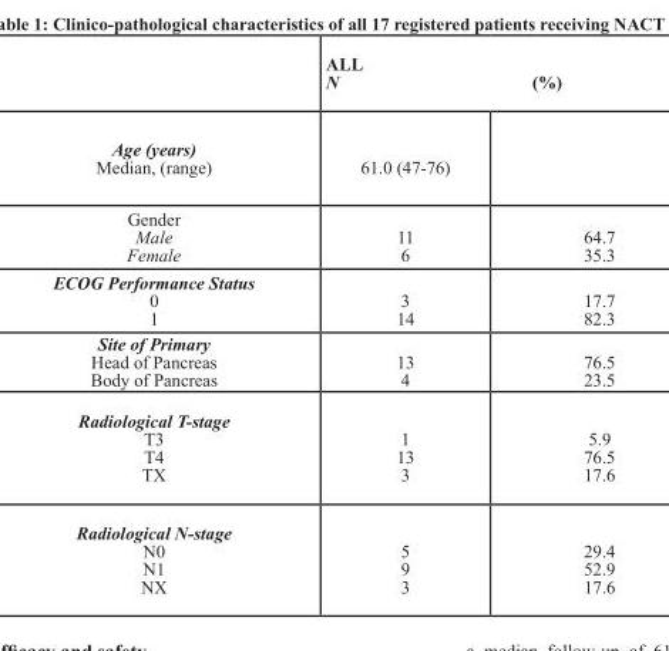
<table><thead><tr><td></td><td>ALL N</td><td>(%)</td></tr></thead><tbody><tr><td>Age (years) Median, (range)</td><td>61.0 (47-76)</td><td></td></tr><tr><td>Gender Male Female</td><td>11 6</td><td>64.7 35.3</td></tr><tr><td>ECOG Performance Status 0 1</td><td>3 14</td><td>17.7 82.3</td></tr><tr><td>Site of Primary Head of Pancreas Body of Pancreas</td><td>13 4</td><td>76.5 23.5</td></tr><tr><td>Radiological T-stage T3 T4 TX</td><td>1 13 3</td><td>5.9 76.5 17.6</td></tr><tr><td>Radiological N-stage N0 N1 NX</td><td>5 9 3</td><td>29.4 52.9 17.6</td></tr></tbody></table>